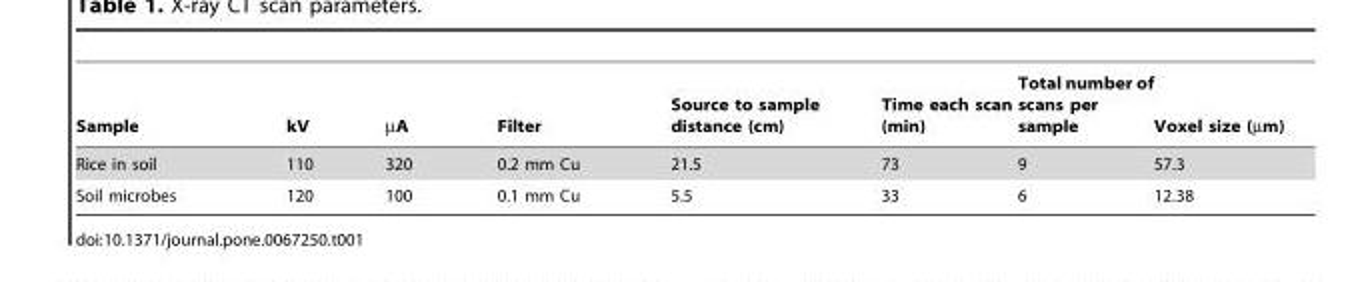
<table><thead><tr><td>Sample</td><td>kV</td><td>µA</td><td>Filter</td><td>Source to sample distance (cm)</td><td>Time each scan (min)</td><td>Total number of scans per sample</td><td>Voxel size (µm)</td></tr></thead><tbody><tr><td>Rice in soil</td><td>110</td><td>320</td><td>0.2 mm Cu</td><td>21.5</td><td>73</td><td>9</td><td>57.3</td></tr><tr><td>Soil microbes</td><td>120</td><td>100</td><td>0.1 mm Cu</td><td>5.5</td><td>33</td><td>6</td><td>12.38</td></tr></tbody></table>